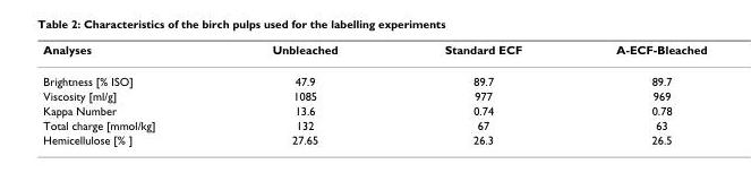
<table><thead><tr><td>Analyses</td><td>Unbleached</td><td>Standard ECF</td><td>A-ECF-Bleached</td></tr></thead><tbody><tr><td>Brightness [% ISO]</td><td>47.9</td><td>89.7</td><td>89.7</td></tr><tr><td>Viscosity [ml/g]</td><td>1085</td><td>977</td><td>969</td></tr><tr><td>Kappa Number</td><td>13.6</td><td>0.74</td><td>0.78</td></tr><tr><td>Total charge [mmol/kg]</td><td>132</td><td>67</td><td>63</td></tr><tr><td>Hemicellulose [% ]</td><td>27.65</td><td>26.3</td><td>26.5</td></tr></tbody></table>